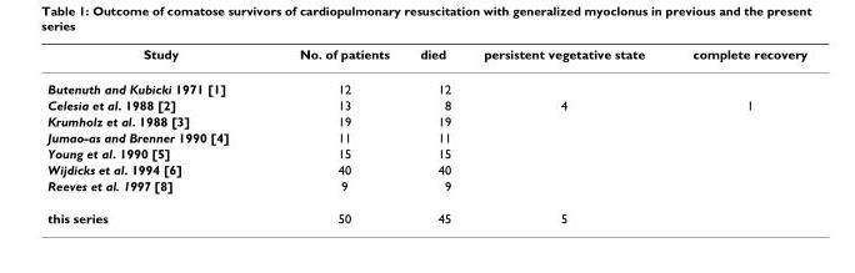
<table><thead><tr><td>Study</td><td>No. of patients</td><td>died</td><td>persistent vegetative state</td><td>complete recovery</td></tr></thead><tbody><tr><td>Butenuth and Kubicki 1971 [1]</td><td>12</td><td>12</td><td></td><td></td></tr><tr><td>Celesia et al. 1988 [2]</td><td>13</td><td>8</td><td>4</td><td>1</td></tr><tr><td>Krumholz et al. 1988 [3]</td><td>19</td><td>19</td><td></td><td></td></tr><tr><td>Jumao-as and Brenner 1990 [4]</td><td>11</td><td>11</td><td></td><td></td></tr><tr><td>Young et al. 1990 [5]</td><td>15</td><td>15</td><td></td><td></td></tr><tr><td>Wijdicks et al. 1994 [6]</td><td>40</td><td>40</td><td></td><td></td></tr><tr><td>Reeves et al. 1997 [8]</td><td>9</td><td>9</td><td></td><td></td></tr><tr><td>this series</td><td>50</td><td>45</td><td>5</td><td></td></tr></tbody></table>